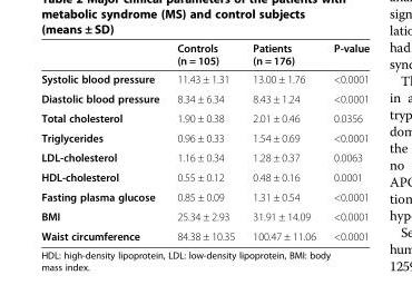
<table><thead><tr><td></td><td>Controls (n = 105)</td><td>Patients (n = 176)</td><td>P-value</td></tr></thead><tbody><tr><td>Systolic blood pressure</td><td>11.43 ± 1.31</td><td>13.00 ± 1.76</td><td>&lt;0.0001</td></tr><tr><td>Diastolic blood pressure</td><td>8.34 ± 6.34</td><td>8.43 ± 1.24</td><td>&lt;0.0001</td></tr><tr><td>Total cholesterol</td><td>1.90 ± 0.38</td><td>2.01 ± 0.46</td><td>0.0356</td></tr><tr><td>Triglycerides</td><td>0.96 ± 0.33</td><td>1.54 ± 0.69</td><td>&lt;0.0001</td></tr><tr><td>LDL-cholesterol</td><td>1.16 ± 0.34</td><td>1.28 ± 0.37</td><td>0.0063</td></tr><tr><td>HDL-cholesterol</td><td>0.55 ± 0.12</td><td>0.48 ± 0.16</td><td>0.0001</td></tr><tr><td>Fasting plasma glucose</td><td>0.85 ± 0.09</td><td>1.31 ± 0.54</td><td>&lt;0.0001</td></tr><tr><td>BMI</td><td>25.34 ± 2.93</td><td>31.91 ± 14.09</td><td>&lt;0.0001</td></tr><tr><td>Waist circumference</td><td>84.38 ± 10.35</td><td>100.47 ± 11.06</td><td>&lt;0.0001</td></tr></tbody></table>